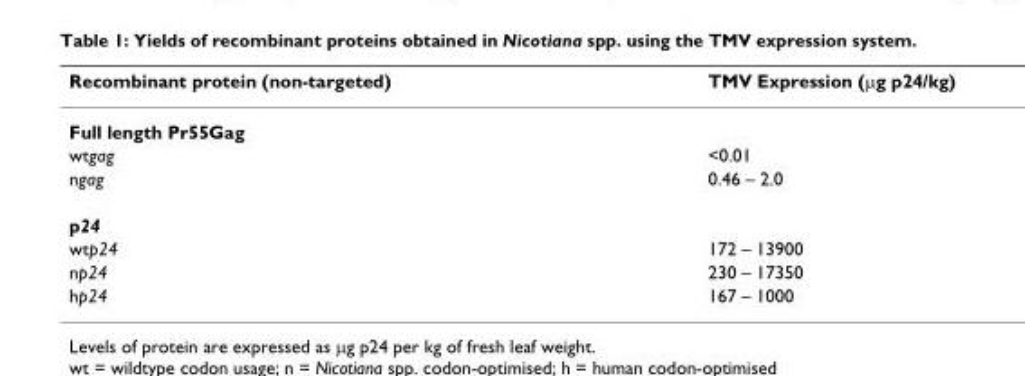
<table><thead><tr><td>Recombinant protein (non-targeted)</td><td>TMV Expression (μg p24/kg)</td></tr></thead><tbody><tr><td colspan="2">Full length Pr55Gag</td></tr><tr><td>wtgag</td><td>&lt;0.01</td></tr><tr><td>ngag</td><td>0.46 – 2.0</td></tr><tr><td colspan="2">p24</td></tr><tr><td>wtp24</td><td>172 – 13900</td></tr><tr><td>np24</td><td>230 – 17350</td></tr><tr><td>hp24</td><td>167 – 1000</td></tr></tbody></table>